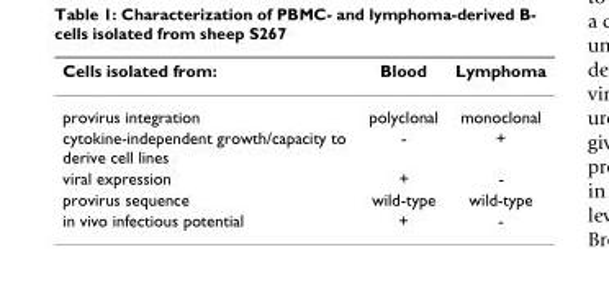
<table><thead><tr><td>Cells isolated from:</td><td>Blood</td><td>Lymphoma</td></tr></thead><tbody><tr><td>provirus integration</td><td>polyclonal</td><td>monoclonal</td></tr><tr><td>cytokine-independent growth/capacity to derive cell lines</td><td>-</td><td>+</td></tr><tr><td>viral expression</td><td>+</td><td>-</td></tr><tr><td>provirus sequence</td><td>wild-type</td><td>wild-type</td></tr><tr><td>in vivo infectious potential</td><td>+</td><td>-</td></tr></tbody></table>